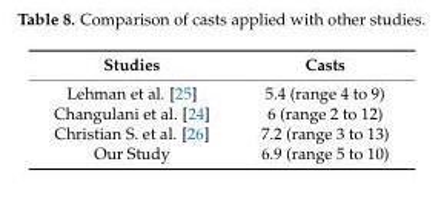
<table><thead><tr><td>Studies</td><td>Casts</td></tr></thead><tbody><tr><td>Lehman et al. [25]</td><td>5.4 (range 4 to 9)</td></tr><tr><td>Changulani et al. [24]</td><td>6 (range 2 to 12)</td></tr><tr><td>Christian S. et al. [26]</td><td>7.2 (range 3 to 13)</td></tr><tr><td>Our Study</td><td>6.9 (range 5 to 10)</td></tr></tbody></table>